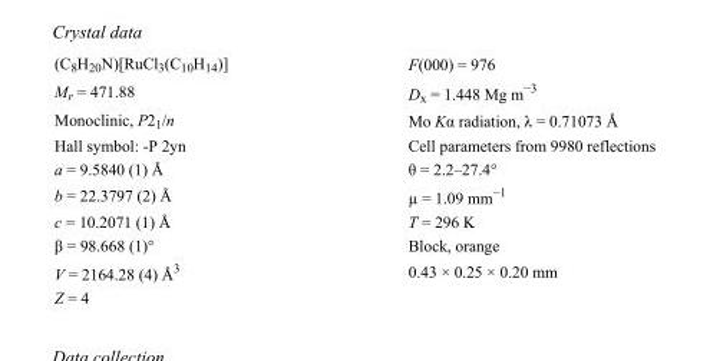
<table><tbody><tr><td>(C<sub>8</sub>H<sub>20</sub>N)[RuCl<sub>3</sub>(C<sub>10</sub>H<sub>14</sub>)]</td><td>F(000) = 976</td></tr><tr><td>M<sub>r</sub> = 471.88</td><td>D<sub>x</sub> = 1.448 Mg m<sup>−3</sup></td></tr><tr><td>Monoclinic, P2<sub>1</sub>/n</td><td>Mo Kα radiation, λ = 0.71073 Å</td></tr><tr><td>Hall symbol: -P 2yn</td><td>Cell parameters from 9980 reflections</td></tr><tr><td>a = 9.5840 (1) Å</td><td>θ = 2.2–27.4°</td></tr><tr><td>b = 22.3797 (2) Å</td><td>µ = 1.09 mm<sup>−1</sup></td></tr><tr><td>c = 10.2071 (1) Å</td><td>T = 296 K</td></tr><tr><td>β = 98.668 (1)°</td><td>Block, orange</td></tr><tr><td>V = 2164.28 (4) Å<sup>3</sup></td><td>0.43 × 0.25 × 0.20 mm</td></tr><tr><td>Z = 4</td><td></td></tr></tbody></table>